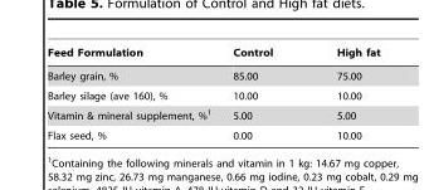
<table><thead><tr><td>Feed Formulation</td><td>Control</td><td>High fat</td></tr></thead><tbody><tr><td>Barley grain, %</td><td>85.00</td><td>75.00</td></tr><tr><td>Barley silage (ave 160), %</td><td>10.00</td><td>10.00</td></tr><tr><td>Vitamin &amp; mineral supplement, %<sup>1</sup></td><td>5.00</td><td>5.00</td></tr><tr><td>Flax seed, %</td><td>0.00</td><td>10.00</td></tr></tbody></table>